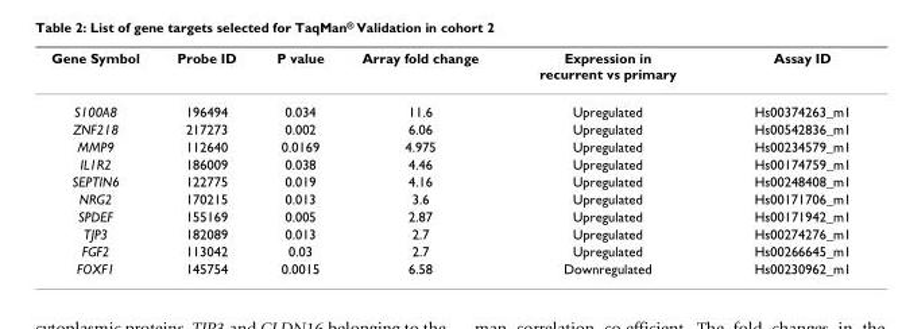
<table><thead><tr><td>Gene Symbol</td><td>Probe ID</td><td>P value</td><td>Array fold change</td><td>Expression in recurrent vs primary</td><td>Assay ID</td></tr></thead><tbody><tr><td>S100A8</td><td>196494</td><td>0.034</td><td>11.6</td><td>Upregulated</td><td>Hs00374263_m1</td></tr><tr><td>ZNF218</td><td>217273</td><td>0.002</td><td>6.06</td><td>Upregulated</td><td>Hs00542836_m1</td></tr><tr><td>MMP9</td><td>112640</td><td>0.0169</td><td>4.975</td><td>Upregulated</td><td>Hs00234579_m1</td></tr><tr><td>IL1R2</td><td>186009</td><td>0.038</td><td>4.46</td><td>Upregulated</td><td>Hs00174759_m1</td></tr><tr><td>SEPTIN6</td><td>122775</td><td>0.019</td><td>4.16</td><td>Upregulated</td><td>Hs00248408_m1</td></tr><tr><td>NRG2</td><td>170215</td><td>0.013</td><td>3.6</td><td>Upregulated</td><td>Hs00171706_m1</td></tr><tr><td>SPDEF</td><td>155169</td><td>0.005</td><td>2.87</td><td>Upregulated</td><td>Hs00171942_m1</td></tr><tr><td>TJP3</td><td>182089</td><td>0.013</td><td>2.7</td><td>Upregulated</td><td>Hs00274276_m1</td></tr><tr><td>FGF2</td><td>113042</td><td>0.03</td><td>2.7</td><td>Upregulated</td><td>Hs00266645_m1</td></tr><tr><td>FOXF1</td><td>145754</td><td>0.0015</td><td>6.58</td><td>Downregulated</td><td>Hs00230962_m1</td></tr></tbody></table>